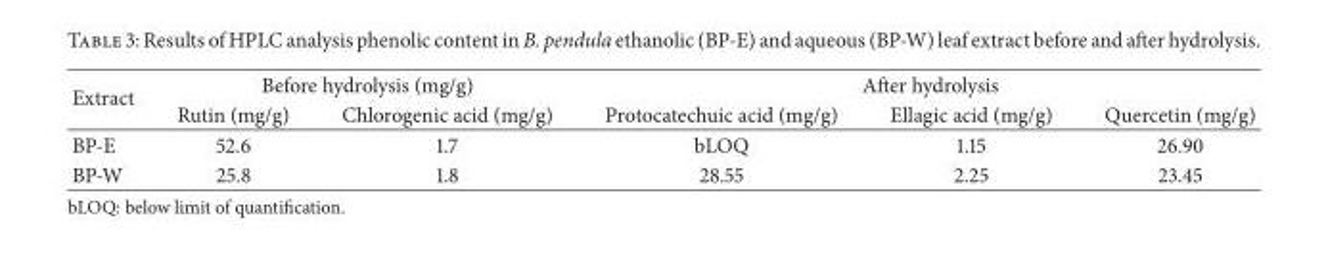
<table><thead><tr><td rowspan="2">Extract</td><td colspan="2">Before hydrolysis (mg/g)</td><td colspan="3">After hydrolysis</td></tr><tr><td>Rutin (mg/g)</td><td>Chlorogenic acid (mg/g)</td><td>Protocatechuic acid (mg/g)</td><td>Ellagic acid (mg/g)</td><td>Quercetin (mg/g)</td></tr></thead><tbody><tr><td>BP-E</td><td>52.6</td><td>1.7</td><td>bLOQ</td><td>1.15</td><td>26.90</td></tr><tr><td>BP-W</td><td>25.8</td><td>1.8</td><td>28.55</td><td>2.25</td><td>23.45</td></tr></tbody></table>